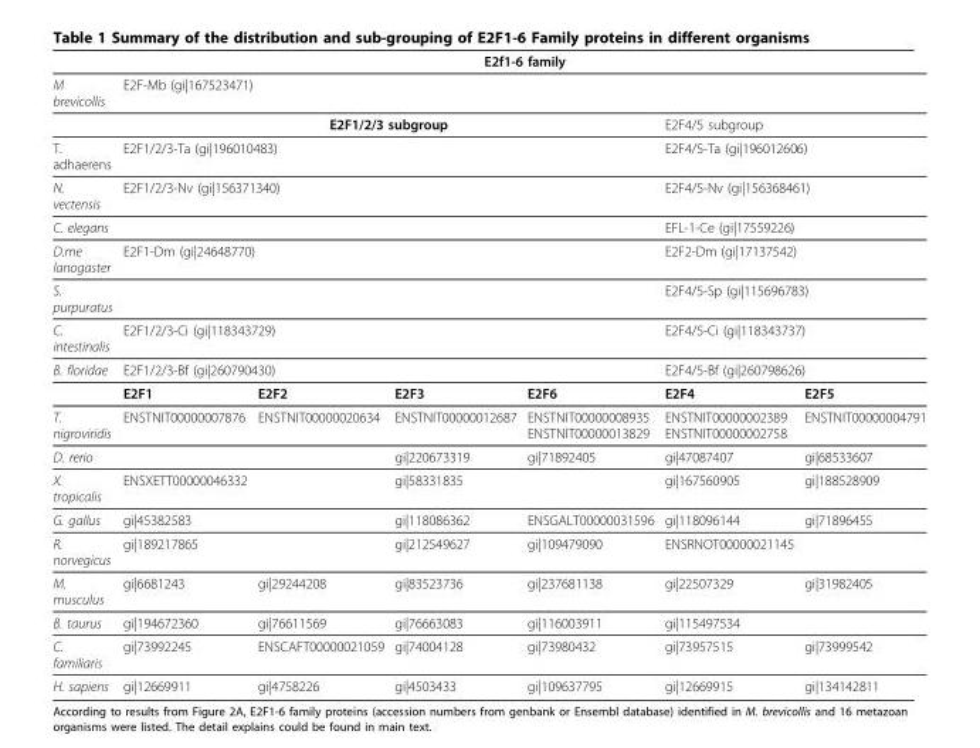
<table><thead><tr><td></td><td colspan="6">E2f1-6 family</td></tr></thead><tbody><tr><td rowspan="2">M brevicollis</td><td colspan="6">E2F-Mb (gi|167523471)</td></tr><tr><td colspan="4">E2F1/2/3 subgroup</td><td colspan="2">E2F4/5 subgroup</td></tr><tr><td>T. adhaerens</td><td colspan="4">E2F1/2/3-Ta (gi|196010483)</td><td colspan="2">E2F4/5-Ta (gi|196012606)</td></tr><tr><td>N. vectensis</td><td colspan="4">E2F1/2/3-Nv (gi|156371340)</td><td colspan="2">E2F4/5-Nv (gi|156368461)</td></tr><tr><td>C. elegans</td><td></td><td></td><td></td><td></td><td colspan="2">EFL-1-Ce (gi|17559226)</td></tr><tr><td>D.me lanogaster</td><td colspan="4">E2F1-Dm (gi|24648770)</td><td colspan="2">E2F2-Dm (gi|17137542)</td></tr><tr><td>S. purpuratus</td><td></td><td></td><td></td><td></td><td colspan="2">E2F4/5-Sp (gi|115696783)</td></tr><tr><td>C. intestinalis</td><td colspan="4">E2F1/2/3-Ci (gi|118343729)</td><td colspan="2">E2F4/5-Ci (gi|118343737)</td></tr><tr><td rowspan="2">B. floridae</td><td colspan="4">E2F1/2/3-Bf (gi|260790430)</td><td colspan="2">E2F4/5-Bf (gi|260798626)</td></tr><tr><td>E2F1</td><td>E2F2</td><td>E2F3</td><td>E2F6</td><td>E2F4</td><td>E2F5</td></tr><tr><td>T. nigroviridis</td><td>ENSTNIT00000007876</td><td>ENSTNIT00000020634</td><td>ENSTNIT00000012687</td><td>ENSTNIT00000008935 ENSTNIT00000013829</td><td>ENSTNIT00000002389 ENSTNIT00000002758</td><td>ENSTNIT00000004791</td></tr><tr><td>D. rerio</td><td></td><td></td><td>gi|220673319</td><td>gi|71892405</td><td>gi|47087407</td><td>gi|68533607</td></tr><tr><td>X. tropicalis</td><td>ENSXETT00000046332</td><td></td><td>gi|58331835</td><td></td><td>gi|167560905</td><td>gi|188528909</td></tr><tr><td>G. gallus</td><td>gi|45382583</td><td></td><td>gi|118086362</td><td>ENSGALT00000031596</td><td>gi|118096144</td><td>gi|71896455</td></tr><tr><td>R. norvegicus</td><td>gi|189217865</td><td></td><td>gi|212549627</td><td>gi|109479090</td><td>ENSRNOT00000021145</td><td></td></tr><tr><td>M. musculus</td><td>gi|6681243</td><td>gi|29244208</td><td>gi|83523736</td><td>gi|237681138</td><td>gi|22507329</td><td>gi|31982405</td></tr><tr><td>B. taurus</td><td>gi|194672360</td><td>gi|76611569</td><td>gi|76663083</td><td>gi|116003911</td><td>gi|115497534</td><td></td></tr><tr><td>C. familiaris</td><td>gi|73992245</td><td>ENSCAFT00000021059</td><td>gi|74004128</td><td>gi|73980432</td><td>gi|73957515</td><td>gi|73999542</td></tr><tr><td>H. sapiens</td><td>gi|12669911</td><td>gi|4758226</td><td>gi|4503433</td><td>gi|109637795</td><td>gi|12669915</td><td>gi|134142811</td></tr></tbody></table>